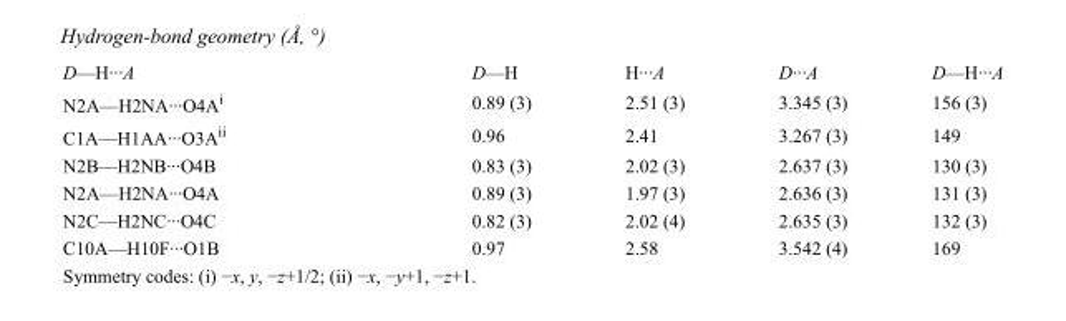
<table><tbody><tr><td>D—H···A</td><td>D—H</td><td>H···A</td><td>D···A</td><td>D—H···A</td></tr><tr><td>N2A—H2NA···O4A<sup>i</sup></td><td>0.89 (3)</td><td>2.51 (3)</td><td>3.345 (3)</td><td>156 (3)</td></tr><tr><td>C1A—H1AA···O3A<sup>ii</sup></td><td>0.96</td><td>2.41</td><td>3.267 (3)</td><td>149</td></tr><tr><td>N2B—H2NB···O4B</td><td>0.83 (3)</td><td>2.02 (3)</td><td>2.637 (3)</td><td>130 (3)</td></tr><tr><td>N2A—H2NA···O4A</td><td>0.89 (3)</td><td>1.97 (3)</td><td>2.636 (3)</td><td>131 (3)</td></tr><tr><td>N2C—H2NC···O4C</td><td>0.82 (3)</td><td>2.02 (4)</td><td>2.635 (3)</td><td>132 (3)</td></tr><tr><td>C10A—H10F···O1B</td><td>0.97</td><td>2.58</td><td>3.542 (4)</td><td>169</td></tr></tbody></table>